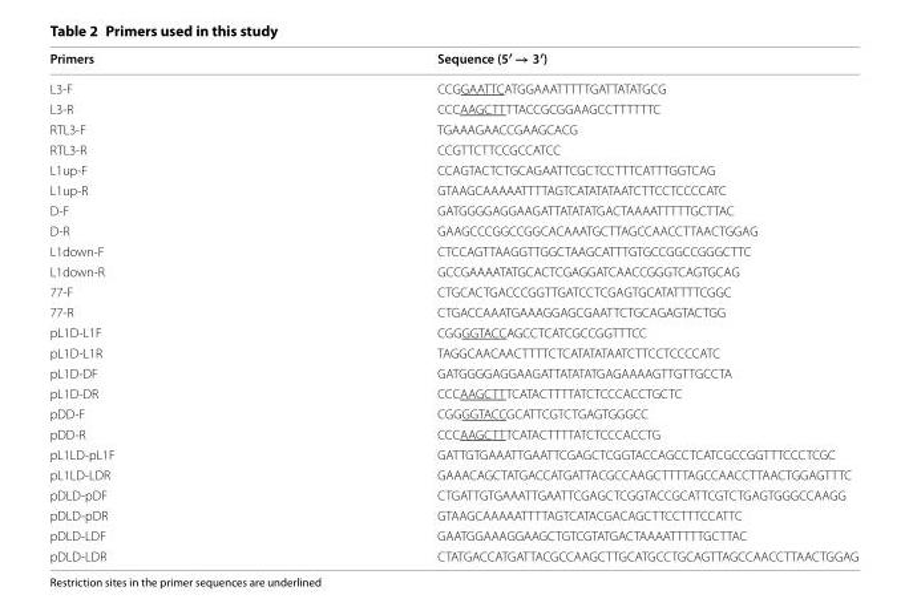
<table><thead><tr><td>Primers</td><td>Sequence (5′ → 3′)</td></tr></thead><tbody><tr><td>L3-F</td><td>CCGGAATTCATGGAAATTTTTGATTATATGCG</td></tr><tr><td>L3-R</td><td>CCCAAGCTTTTACCGCGGAAGCCTTTTTTC</td></tr><tr><td>RTL3-F</td><td>TGAAAGAACCGAAGCACG</td></tr><tr><td>RTL3-R</td><td>CCGTTCTTCCGCCATCC</td></tr><tr><td>L1up-F</td><td>CCAGTACTCTGCAGAATTCGCTCCTTTCATTTGGTCAG</td></tr><tr><td>L1up-R</td><td>GTAAGCAAAAATTTTAGTCATATATAATCTTCCTCCCCATC</td></tr><tr><td>D-F</td><td>GATGGGGAGGAAGATTATATATGACTAAAATTTTTGCTTAC</td></tr><tr><td>D-R</td><td>GAAGCCCGGCCGGCACAAATGCTTAGCCAACCTTAACTGGAG</td></tr><tr><td>L1down-F</td><td>CTCCAGTTAAGGTTGGCTAAGCATTTGTGCCGGCCGGGCTTC</td></tr><tr><td>L1down-R</td><td>GCCGAAAATATGCACTCGAGGATCAACCGGGTCAGTGCAG</td></tr><tr><td>77-F</td><td>CTGCACTGACCCGGTTGATCCTCGAGTGCATATTTTCGGC</td></tr><tr><td>77-R</td><td>CTGACCAAATGAAAGGAGCGAATTCTGCAGAGTACTGG</td></tr><tr><td>pL1D-L1F</td><td>CGGGGTACCAGCCTCATCGCCGGTTTCC</td></tr><tr><td>pL1D-L1R</td><td>TAGGCAACAACTTTTCTCATATATAATCTTCCTCCCCATC</td></tr><tr><td>pL1D-DF</td><td>GATGGGGAGGAAGATTATATATGAGAAAAGTTGTTGCCTA</td></tr><tr><td>pL1D-DR</td><td>CCCAAGCTTTCATACTTTTATCTCCCACCTGCTC</td></tr><tr><td>pDD-F</td><td>CGGGGTACCGCATTCGTCTGAGTGGGCC</td></tr><tr><td>pDD-R</td><td>CCCAAGCTTTCATACTTTTATCTCCCACCTG</td></tr><tr><td>pL1LD-pL1F</td><td>GATTGTGAAATTGAATTCGAGCTCGGTACCAGCCTCATCGCCGGTTTCCCTCGC</td></tr><tr><td>pL1LD-LDR</td><td>GAAACAGCTATGACCATGATTACGCCAAGCTTTTAGCCAACCTTAACTGGAGTTTC</td></tr><tr><td>pDLD-pDF</td><td>CTGATTGTGAAATTGAATTCGAGCTCGGTACCGCATTCGTCTGAGTGGGCCAAGG</td></tr><tr><td>pDLD-pDR</td><td>GTAAGCAAAAATTTTAGTCATACGACAGCTTCCTTTCCATTC</td></tr><tr><td>pDLD-LDF</td><td>GAATGGAAAGGAAGCTGTCGTATGACTAAAATTTTTGCTTAC</td></tr><tr><td>pDLD-LDR</td><td>CTATGACCATGATTACGCCAAGCTTGCATGCCTGCAGTTAGCCAACCTTAACTGGAG</td></tr></tbody></table>